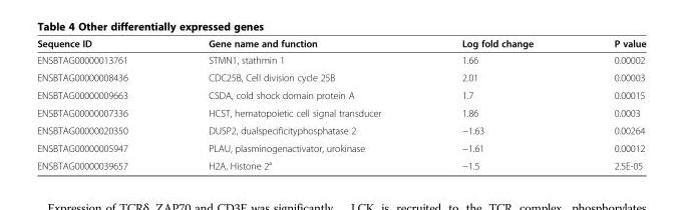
<table><thead><tr><td>Sequence ID</td><td>Gene name and function</td><td>Log fold change</td><td>P value</td></tr></thead><tbody><tr><td>ENSBTAG00000013761</td><td>STMN1, stathmin 1</td><td>1.66</td><td>0.00002</td></tr><tr><td>ENSBTAG00000008436</td><td>CDC25B, Cell division cycle 25B</td><td>2.01</td><td>0.00003</td></tr><tr><td>ENSBTAG00000009663</td><td>CSDA, cold shock domain protein A</td><td>1.7</td><td>0.00015</td></tr><tr><td>ENSBTAG00000007336</td><td>HCST, hematopoietic cell signal transducer</td><td>1.86</td><td>0.0003</td></tr><tr><td>ENSBTAG00000020350</td><td>DUSP2, dualspecificityphosphatase 2</td><td>−1.63</td><td>0.00264</td></tr><tr><td>ENSBTAG00000005947</td><td>PLAU, plasminogenactivator, urokinase</td><td>−1.61</td><td>0.00012</td></tr><tr><td>ENSBTAG00000039657</td><td>H2A, Histone 2°</td><td>−1.5</td><td>2.5E-05</td></tr></tbody></table>